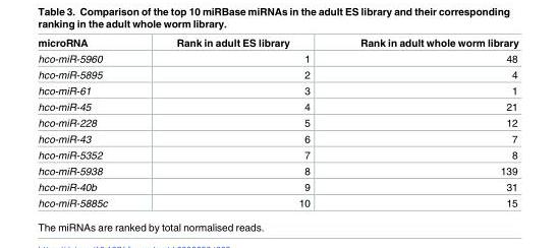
<table><thead><tr><td>microRNA</td><td>Rank in adult ES library</td><td>Rank in adult whole worm library</td></tr></thead><tbody><tr><td>hco-miR-5960</td><td>1</td><td>48</td></tr><tr><td>hco-miR-5895</td><td>2</td><td>4</td></tr><tr><td>hco-miR-61</td><td>3</td><td>1</td></tr><tr><td>hco-miR-45</td><td>4</td><td>21</td></tr><tr><td>hco-miR-228</td><td>5</td><td>12</td></tr><tr><td>hco-miR-43</td><td>6</td><td>7</td></tr><tr><td>hco-miR-5352</td><td>7</td><td>8</td></tr><tr><td>hco-miR-5938</td><td>8</td><td>139</td></tr><tr><td>hco-miR-40b</td><td>9</td><td>31</td></tr><tr><td>hco-miR-5885c</td><td>10</td><td>15</td></tr></tbody></table>